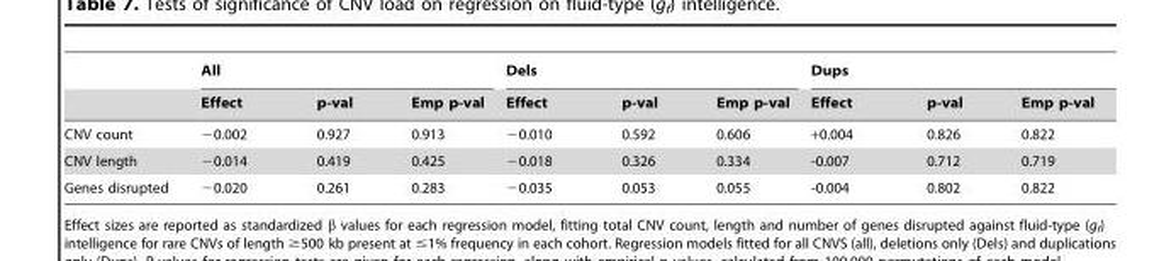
<table><thead><tr><td rowspan="2"></td><td colspan="3">All</td><td colspan="3">Dels</td><td colspan="3">Dups</td></tr><tr><td>Effect</td><td>p-val</td><td>Emp p-val</td><td>Effect</td><td>p-val</td><td>Emp p-val</td><td>Effect</td><td>p-val</td><td>Emp p-val</td></tr></thead><tbody><tr><td>CNV count</td><td>−0.002</td><td>0.927</td><td>0.913</td><td>−0.010</td><td>0.592</td><td>0.606</td><td>+0.004</td><td>0.826</td><td>0.822</td></tr><tr><td>CNV length</td><td>−0.014</td><td>0.419</td><td>0.425</td><td>−0.018</td><td>0.326</td><td>0.334</td><td>-0.007</td><td>0.712</td><td>0.719</td></tr><tr><td>Genes disrupted</td><td>−0.020</td><td>0.261</td><td>0.283</td><td>−0.035</td><td>0.053</td><td>0.055</td><td>-0.004</td><td>0.802</td><td>0.822</td></tr></tbody></table>